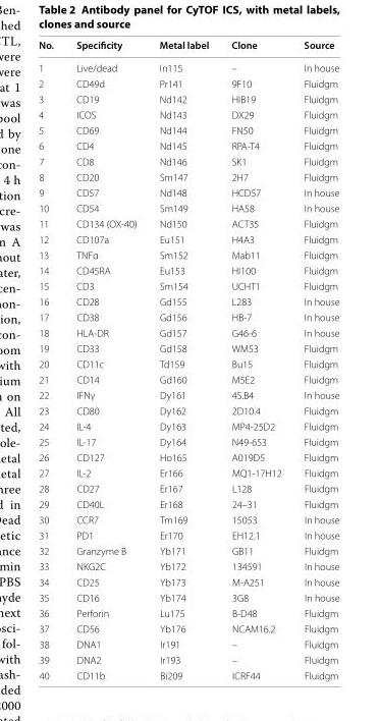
<table><thead><tr><td>No.</td><td>Specificity</td><td>Metal label</td><td>Clone</td><td>Source</td></tr></thead><tbody><tr><td>1</td><td>Live/dead</td><td>In115</td><td>–</td><td>In house</td></tr><tr><td>2</td><td>CD49d</td><td>Pr141</td><td>9F10</td><td>Fluidgm</td></tr><tr><td>3</td><td>CD19</td><td>Nd142</td><td>HIB19</td><td>Fluidgm</td></tr><tr><td>4</td><td>ICOS</td><td>Nd143</td><td>DX29</td><td>Fluidgm</td></tr><tr><td>5</td><td>CD69</td><td>Nd144</td><td>FN50</td><td>Fluidgm</td></tr><tr><td>6</td><td>CD4</td><td>Nd145</td><td>RPA-T4</td><td>Fluidgm</td></tr><tr><td>7</td><td>CD8</td><td>Nd146</td><td>SK1</td><td>Fluidgm</td></tr><tr><td>8</td><td>CD20</td><td>Sm147</td><td>2H7</td><td>Fluidgm</td></tr><tr><td>9</td><td>CD57</td><td>Nd148</td><td>HCD57</td><td>In house</td></tr><tr><td>10</td><td>CD54</td><td>Sm149</td><td>HA58</td><td>In house</td></tr><tr><td>11</td><td>CD134 (OX-40)</td><td>Nd150</td><td>ACT35</td><td>Fluidgm</td></tr><tr><td>12</td><td>CD107a</td><td>Eu151</td><td>H4A3</td><td>Fluidgm</td></tr><tr><td>13</td><td>TNFα</td><td>Sm152</td><td>Mab11</td><td>Fluidgm</td></tr><tr><td>14</td><td>CD45RA</td><td>Eu153</td><td>HI100</td><td>Fluidgm</td></tr><tr><td>15</td><td>CD3</td><td>Sm154</td><td>UCHT1</td><td>Fluidgm</td></tr><tr><td>16</td><td>CD28</td><td>Gd155</td><td>L283</td><td>In house</td></tr><tr><td>17</td><td>CD38</td><td>Gd156</td><td>HB-7</td><td>In house</td></tr><tr><td>18</td><td>HLA-DR</td><td>Gd157</td><td>G46-6</td><td>In house</td></tr><tr><td>19</td><td>CD33</td><td>Gd158</td><td>WM53</td><td>Fluidgm</td></tr><tr><td>20</td><td>CD11c</td><td>Td159</td><td>Bu15</td><td>Fluidgm</td></tr><tr><td>21</td><td>CD14</td><td>Gd160</td><td>M5E2</td><td>Fluidgm</td></tr><tr><td>22</td><td>IFNγ</td><td>Dy161</td><td>4S.B4</td><td>In house</td></tr><tr><td>23</td><td>CD80</td><td>Dy162</td><td>2D10.4</td><td>Fluidgm</td></tr><tr><td>24</td><td>IL-4</td><td>Dy163</td><td>MP4-25D2</td><td>Fluidgm</td></tr><tr><td>25</td><td>IL-17</td><td>Dy164</td><td>N49-653</td><td>Fluidgm</td></tr><tr><td>26</td><td>CD127</td><td>Ho165</td><td>A019D5</td><td>Fluidgm</td></tr><tr><td>27</td><td>IL-2</td><td>Er166</td><td>MQ1-17H12</td><td>Fluidgm</td></tr><tr><td>28</td><td>CD27</td><td>Er167</td><td>L128</td><td>Fluidgm</td></tr><tr><td>29</td><td>CD40L</td><td>Er168</td><td>24–31</td><td>Fluidgm</td></tr><tr><td>30</td><td>CCR7</td><td>Tm169</td><td>15053</td><td>In house</td></tr><tr><td>31</td><td>PD1</td><td>Er170</td><td>EH12.1</td><td>In house</td></tr><tr><td>32</td><td>Granzyme B</td><td>Yb171</td><td>GB11</td><td>Fluidgm</td></tr><tr><td>33</td><td>NKG2C</td><td>Yb172</td><td>134591</td><td>In house</td></tr><tr><td>34</td><td>CD25</td><td>Yb173</td><td>M-A251</td><td>In house</td></tr><tr><td>35</td><td>CD16</td><td>Yb174</td><td>3G8</td><td>In house</td></tr><tr><td>36</td><td>Perforin</td><td>Lu175</td><td>B-D48</td><td>Fluidgm</td></tr><tr><td>37</td><td>CD56</td><td>Yb176</td><td>NCAM16.2</td><td>Fluidgm</td></tr><tr><td>38</td><td>DNA1</td><td>Ir191</td><td>–</td><td>Fluidgm</td></tr><tr><td>39</td><td>DNA2</td><td>Ir193</td><td>–</td><td>Fluidgm</td></tr><tr><td>40</td><td>CD11b</td><td>Bi209</td><td>ICRF44</td><td>Fluidgm</td></tr></tbody></table>